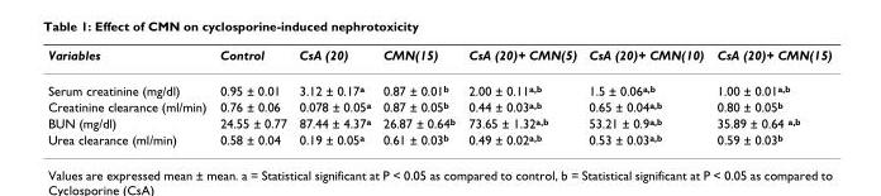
<table><thead><tr><td>Variables</td><td>Control</td><td>CsA (20)</td><td>CMN(15)</td><td>CsA (20)+ CMN(5)</td><td>CsA (20)+ CMN(10)</td><td>CsA (20)+ CMN(15)</td></tr></thead><tbody><tr><td>Serum creatinine (mg/dl)</td><td>0.95 ± 0.01</td><td>3.12 ± 0.17<sup>a</sup></td><td>0.87 ± 0.01<sup>b</sup></td><td>2.00 ± 0.11<sup>a,b</sup></td><td>1.5 ± 0.06<sup>a,b</sup></td><td>1.00 ± 0.01<sup>a,b</sup></td></tr><tr><td>Creatinine clearance (ml/min)</td><td>0.76 ± 0.06</td><td>0.078 ± 0.05<sup>a</sup></td><td>0.87 ± 0.05<sup>b</sup></td><td>0.44 ± 0.03<sup>a,b</sup></td><td>0.65 ± 0.04<sup>a,b</sup></td><td>0.80 ± 0.05<sup>b</sup></td></tr><tr><td>BUN (mg/dl)</td><td>24.55 ± 0.77</td><td>87.44 ± 4.37<sup>a</sup></td><td>26.87 ± 0.64<sup>b</sup></td><td>73.65 ± 1.32<sup>a,b</sup></td><td>53.21 ± 0.9<sup>a,b</sup></td><td>35.89 ± 0.64 <sup>a,b</sup></td></tr><tr><td>Urea clearance (ml/min)</td><td>0.58 ± 0.04</td><td>0.19 ± 0.05<sup>a</sup></td><td>0.61 ± 0.03<sup>b</sup></td><td>0.49 ± 0.02<sup>a,b</sup></td><td>0.53 ± 0.03<sup>a,b</sup></td><td>0.59 ± 0.03<sup>b</sup></td></tr></tbody></table>